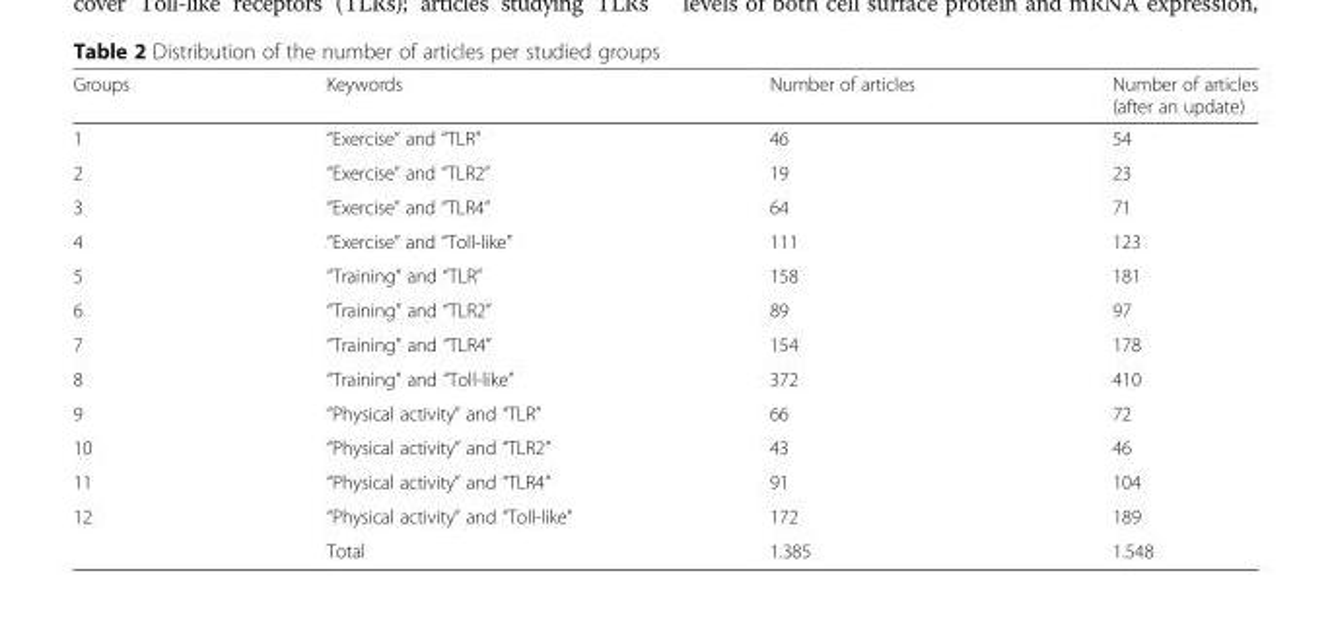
<table><thead><tr><td>Groups</td><td>Keywords</td><td>Number of articles</td><td>Number of articles (after an update)</td></tr></thead><tbody><tr><td>1</td><td>“Exercise” and “TLR”</td><td>46</td><td>54</td></tr><tr><td>2</td><td>“Exercise” and “TLR2”</td><td>19</td><td>23</td></tr><tr><td>3</td><td>“Exercise” and “TLR4”</td><td>64</td><td>71</td></tr><tr><td>4</td><td>“Exercise” and “Toll-like”</td><td>111</td><td>123</td></tr><tr><td>5</td><td>“Training” and “TLR”</td><td>158</td><td>181</td></tr><tr><td>6</td><td>“Training” and “TLR2”</td><td>89</td><td>97</td></tr><tr><td>7</td><td>“Training” and “TLR4”</td><td>154</td><td>178</td></tr><tr><td>8</td><td>“Training” and “Toll-like”</td><td>372</td><td>410</td></tr><tr><td>9</td><td>“Physical activity” and “TLR”</td><td>66</td><td>72</td></tr><tr><td>10</td><td>“Physical activity” and “TLR2”</td><td>43</td><td>46</td></tr><tr><td>11</td><td>“Physical activity” and “TLR4”</td><td>91</td><td>104</td></tr><tr><td rowspan="2">12</td><td>“Physical activity” and “Toll-like”</td><td>172</td><td>189</td></tr><tr><td>Total</td><td>1.385</td><td>1.548</td></tr></tbody></table>